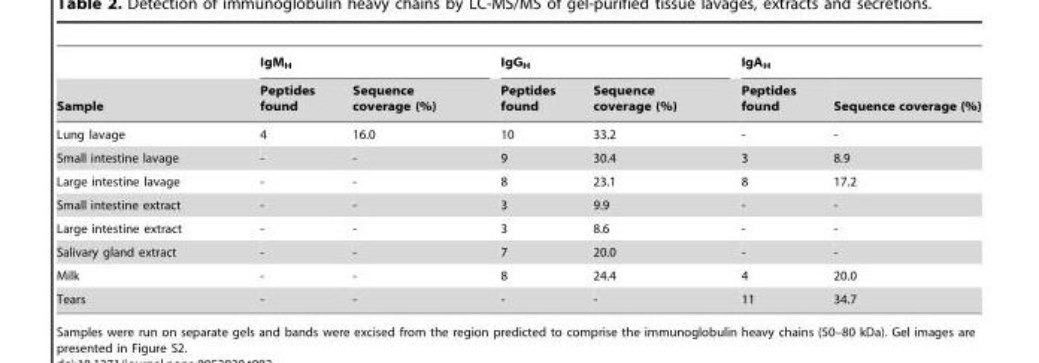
<table><thead><tr><td rowspan="2">Sample</td><td colspan="2">IgM<sub>H</sub></td><td colspan="2">IgG<sub>H</sub></td><td colspan="2">IgA<sub>H</sub></td></tr><tr><td>Peptides found</td><td>Sequence coverage (%)</td><td>Peptides found</td><td>Sequence coverage (%)</td><td>Peptides found</td><td>Sequence coverage (%)</td></tr></thead><tbody><tr><td>Lung lavage</td><td>4</td><td>16.0</td><td>10</td><td>33.2</td><td>-</td><td>-</td></tr><tr><td>Small intestine lavage</td><td>-</td><td>-</td><td>9</td><td>30.4</td><td>3</td><td>8.9</td></tr><tr><td>Large intestine lavage</td><td>-</td><td>-</td><td>8</td><td>23.1</td><td>8</td><td>17.2</td></tr><tr><td>Small intestine extract</td><td>-</td><td>-</td><td>3</td><td>9.9</td><td>-</td><td>-</td></tr><tr><td>Large intestine extract</td><td>-</td><td>-</td><td>3</td><td>8.6</td><td>-</td><td>-</td></tr><tr><td>Salivary gland extract</td><td>-</td><td>-</td><td>7</td><td>20.0</td><td>-</td><td>-</td></tr><tr><td>Milk</td><td>-</td><td>-</td><td>8</td><td>24.4</td><td>4</td><td>20.0</td></tr><tr><td>Tears</td><td>-</td><td>-</td><td>-</td><td>-</td><td>11</td><td>34.7</td></tr></tbody></table>